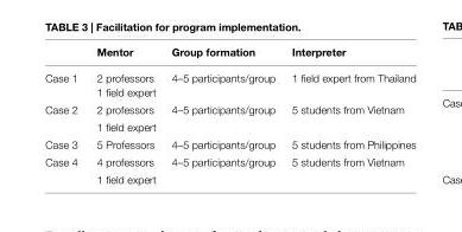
<table><thead><tr><td></td><td>Mentor</td><td>Group formation</td><td>Interpreter</td></tr></thead><tbody><tr><td rowspan="2">Case 1</td><td>2 professors</td><td rowspan="2">4–5 participants/group</td><td rowspan="2">1 field expert from Thailand</td></tr><tr><td>1 field expert</td></tr><tr><td rowspan="2">Case 2</td><td>2 professors</td><td rowspan="2">4–5 participants/group</td><td rowspan="2">5 students from Vietnam</td></tr><tr><td>1 field expert</td></tr><tr><td>Case 3</td><td>5 Professors</td><td>4–5 participants/group</td><td>5 students from Philippines</td></tr><tr><td rowspan="2">Case 4</td><td>4 professors</td><td rowspan="2">4–5 participants/group</td><td rowspan="2">5 students from Vietnam</td></tr><tr><td>1 field expert</td></tr></tbody></table>